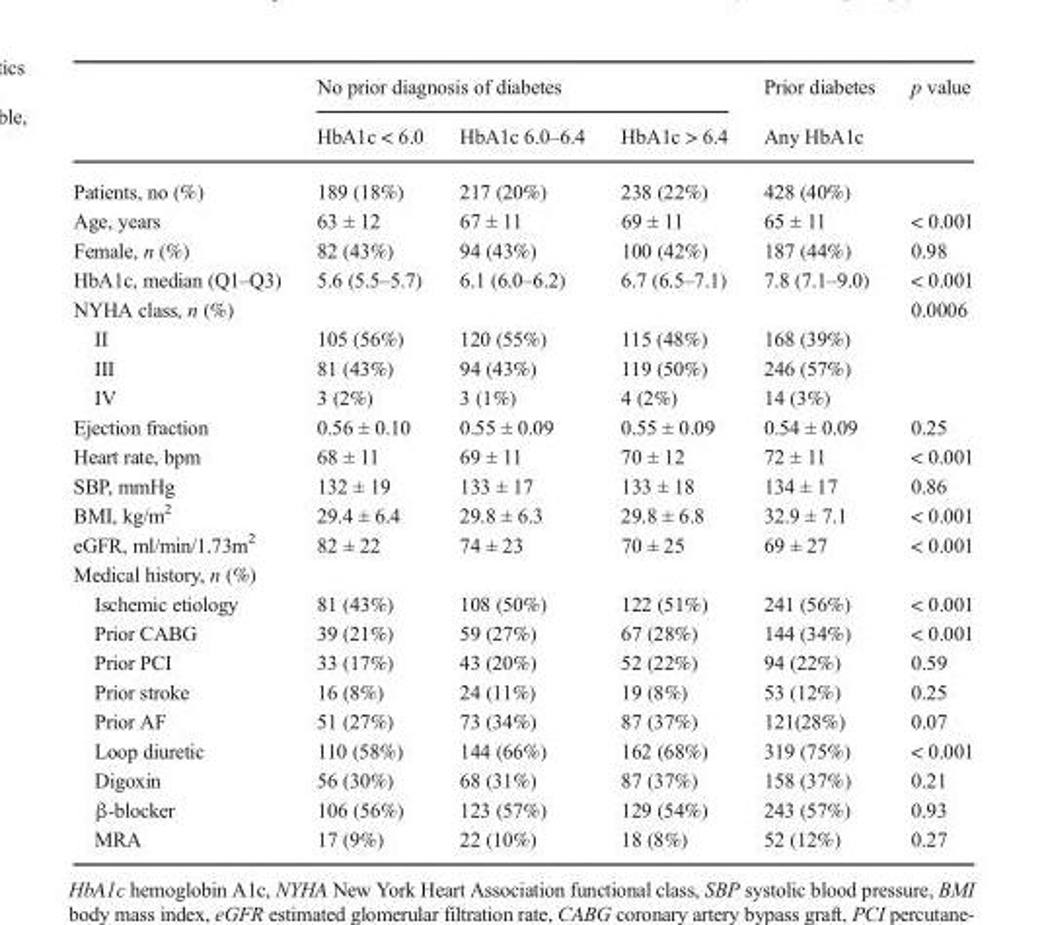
<table><thead><tr><td rowspan="2"></td><td colspan="3">No prior diagnosis of diabetes</td><td rowspan="2">Prior diabetes Any HbA1c</td><td rowspan="2">p value</td></tr><tr><td>HbA1c &lt; 6.0</td><td>HbA1c 6.0–6.4</td><td>HbA1c &gt; 6.4</td></tr></thead><tbody><tr><td>Patients, no (%)</td><td>189 (18%)</td><td>217 (20%)</td><td>238 (22%)</td><td>428 (40%)</td><td></td></tr><tr><td>Age, years</td><td>63 ± 12</td><td>67 ± 11</td><td>69 ± 11</td><td>65 ± 11</td><td>&lt; 0.001</td></tr><tr><td>Female, n (%)</td><td>82 (43%)</td><td>94 (43%)</td><td>100 (42%)</td><td>187 (44%)</td><td>0.98</td></tr><tr><td>HbA1c, median (Q1–Q3)</td><td>5.6 (5.5–5.7)</td><td>6.1 (6.0–6.2)</td><td>6.7 (6.5–7.1)</td><td>7.8 (7.1–9.0)</td><td>&lt; 0.001</td></tr><tr><td>NYHA class, n (%)</td><td></td><td></td><td></td><td></td><td>0.0006</td></tr><tr><td>II</td><td>105 (56%)</td><td>120 (55%)</td><td>115 (48%)</td><td>168 (39%)</td><td></td></tr><tr><td>III</td><td>81 (43%)</td><td>94 (43%)</td><td>119 (50%)</td><td>246 (57%)</td><td></td></tr><tr><td>IV</td><td>3 (2%)</td><td>3 (1%)</td><td>4 (2%)</td><td>14 (3%)</td><td></td></tr><tr><td>Ejection fraction</td><td>0.56 ± 0.10</td><td>0.55 ± 0.09</td><td>0.55 ± 0.09</td><td>0.54 ± 0.09</td><td>0.25</td></tr><tr><td>Heart rate, bpm</td><td>68 ± 11</td><td>69 ± 11</td><td>70 ± 12</td><td>72 ± 11</td><td>&lt; 0.001</td></tr><tr><td>SBP, mmHg</td><td>132 ± 19</td><td>133 ± 17</td><td>133 ± 18</td><td>134 ± 17</td><td>0.86</td></tr><tr><td>BMI, kg/m<sup>2</sup></td><td>29.4 ± 6.4</td><td>29.8 ± 6.3</td><td>29.8 ± 6.8</td><td>32.9 ± 7.1</td><td>&lt; 0.001</td></tr><tr><td>eGFR, ml/min/1.73m<sup>2</sup></td><td>82 ± 22</td><td>74 ± 23</td><td>70 ± 25</td><td>69 ± 27</td><td>&lt; 0.001</td></tr><tr><td colspan="6">Medical history, n (%)</td></tr><tr><td>Ischemic etiology</td><td>81 (43%)</td><td>108 (50%)</td><td>122 (51%)</td><td>241 (56%)</td><td>&lt; 0.001</td></tr><tr><td>Prior CABG</td><td>39 (21%)</td><td>59 (27%)</td><td>67 (28%)</td><td>144 (34%)</td><td>&lt; 0.001</td></tr><tr><td>Prior PCI</td><td>33 (17%)</td><td>43 (20%)</td><td>52 (22%)</td><td>94 (22%)</td><td>0.59</td></tr><tr><td>Prior stroke</td><td>16 (8%)</td><td>24 (11%)</td><td>19 (8%)</td><td>53 (12%)</td><td>0.25</td></tr><tr><td>Prior AF</td><td>51 (27%)</td><td>73 (34%)</td><td>87 (37%)</td><td>121(28%)</td><td>0.07</td></tr><tr><td>Loop diuretic</td><td>110 (58%)</td><td>144 (66%)</td><td>162 (68%)</td><td>319 (75%)</td><td>&lt; 0.001</td></tr><tr><td>Digoxin</td><td>56 (30%)</td><td>68 (31%)</td><td>87 (37%)</td><td>158 (37%)</td><td>0.21</td></tr><tr><td>β-blocker</td><td>106 (56%)</td><td>123 (57%)</td><td>129 (54%)</td><td>243 (57%)</td><td>0.93</td></tr><tr><td>MRA</td><td>17 (9%)</td><td>22 (10%)</td><td>18 (8%)</td><td>52 (12%)</td><td>0.27</td></tr></tbody></table>